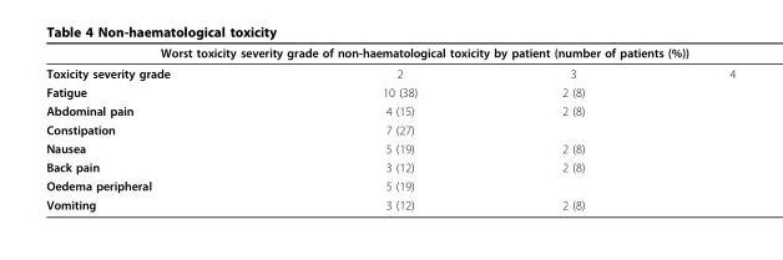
<table><thead><tr><td colspan="4">Worst toxicity severity grade of non-haematological toxicity by patient (number of patients (%))</td></tr><tr><td>Toxicity severity grade</td><td>2</td><td>3</td><td>4</td></tr></thead><tbody><tr><td>Fatigue</td><td>10 (38)</td><td>2 (8)</td><td></td></tr><tr><td>Abdominal pain</td><td>4 (15)</td><td>2 (8)</td><td></td></tr><tr><td>Constipation</td><td>7 (27)</td><td></td><td></td></tr><tr><td>Nausea</td><td>5 (19)</td><td>2 (8)</td><td></td></tr><tr><td>Back pain</td><td>3 (12)</td><td>2 (8)</td><td></td></tr><tr><td>Oedema peripheral</td><td>5 (19)</td><td></td><td></td></tr><tr><td>Vomiting</td><td>3 (12)</td><td>2 (8)</td><td></td></tr></tbody></table>